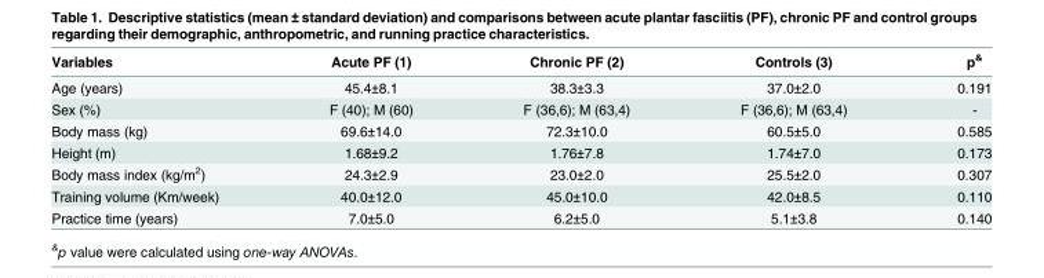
<table><thead><tr><td>Variables</td><td>Acute PF (1)</td><td>Chronic PF (2)</td><td>Controls (3)</td><td>p<sup>&amp;</sup></td></tr></thead><tbody><tr><td>Age (years)</td><td>45.4±8.1</td><td>38.3±3.3</td><td>37.0±2.0</td><td>0.191</td></tr><tr><td>Sex (%)</td><td>F (40); M (60)</td><td>F (36,6); M (63,4)</td><td>F (36,6); M (63,4)</td><td>-</td></tr><tr><td>Body mass (kg)</td><td>69.6±14.0</td><td>72.3±10.0</td><td>60.5±5.0</td><td>0.585</td></tr><tr><td>Height (m)</td><td>1.68±9.2</td><td>1.76±7.8</td><td>1.74±7.0</td><td>0.173</td></tr><tr><td>Body mass index (kg/m<sup>2</sup>)</td><td>24.3±2.9</td><td>23.0±2.0</td><td>25.5±2.0</td><td>0.307</td></tr><tr><td>Training volume (Km/week)</td><td>40.0±12.0</td><td>45.0±10.0</td><td>42.0±8.5</td><td>0.110</td></tr><tr><td>Practice time (years)</td><td>7.0±5.0</td><td>6.2±5.0</td><td>5.1±3.8</td><td>0.140</td></tr></tbody></table>